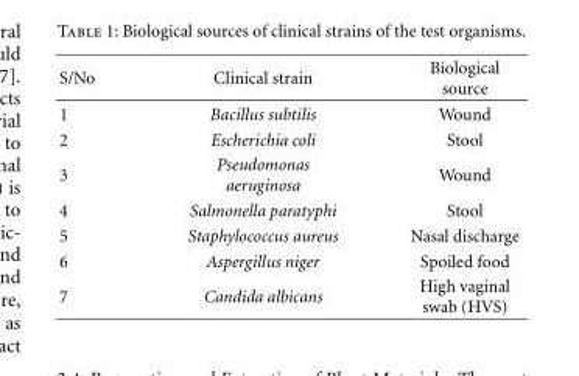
<table><thead><tr><td>S/No</td><td>Clinical strain</td><td>Biological source</td></tr></thead><tbody><tr><td>1</td><td>Bacillus subtilis</td><td>Wound</td></tr><tr><td>2</td><td>Escherichia coli</td><td>Stool</td></tr><tr><td>3</td><td>Pseudomonas aeruginosa</td><td>Wound</td></tr><tr><td>4</td><td>Salmonella paratyphi</td><td>Stool</td></tr><tr><td>5</td><td>Staphylococcus aureus</td><td>Nasal discharge</td></tr><tr><td>6</td><td>Aspergillus niger</td><td>Spoiled food</td></tr><tr><td>7</td><td>Candida albicans</td><td>High vaginal swab (HVS)</td></tr></tbody></table>